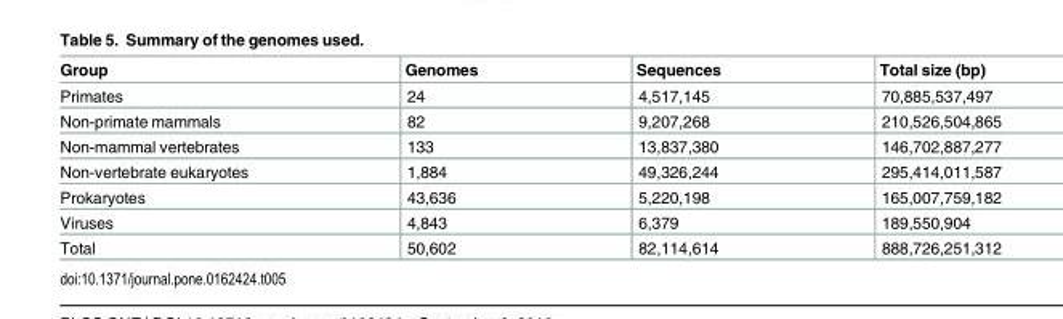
<table><thead><tr><td>Group</td><td>Genomes</td><td>Sequences</td><td>Total size (bp)</td></tr></thead><tbody><tr><td>Primates</td><td>24</td><td>4,517,145</td><td>70,885,537,497</td></tr><tr><td>Non-primate mammals</td><td>82</td><td>9,207,268</td><td>210,526,504,865</td></tr><tr><td>Non-mammal vertebrates</td><td>133</td><td>13,837,380</td><td>146,702,887,277</td></tr><tr><td>Non-vertebrate eukaryotes</td><td>1,884</td><td>49,326,244</td><td>295,414,011,587</td></tr><tr><td>Prokaryotes</td><td>43,636</td><td>5,220,198</td><td>165,007,759,182</td></tr><tr><td>Viruses</td><td>4,843</td><td>6,379</td><td>189,550,904</td></tr><tr><td>Total</td><td>50,602</td><td>82,114,614</td><td>888,726,251,312</td></tr></tbody></table>